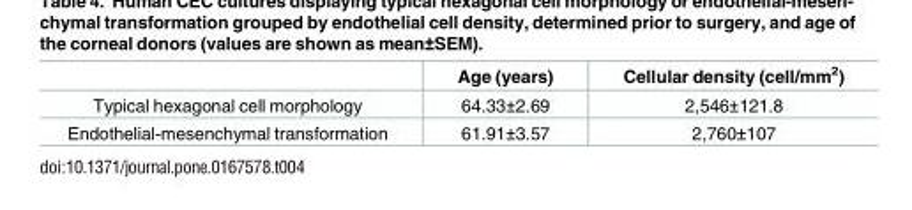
<table><thead><tr><td></td><td>Age (years)</td><td>Cellular density (cell/mm<sup>2</sup>)</td></tr></thead><tbody><tr><td>Typical hexagonal cell morphology</td><td>64.33±2.69</td><td>2,546±121.8</td></tr><tr><td>Endothelial-mesenchymal transformation</td><td>61.91±3.57</td><td>2,760±107</td></tr></tbody></table>